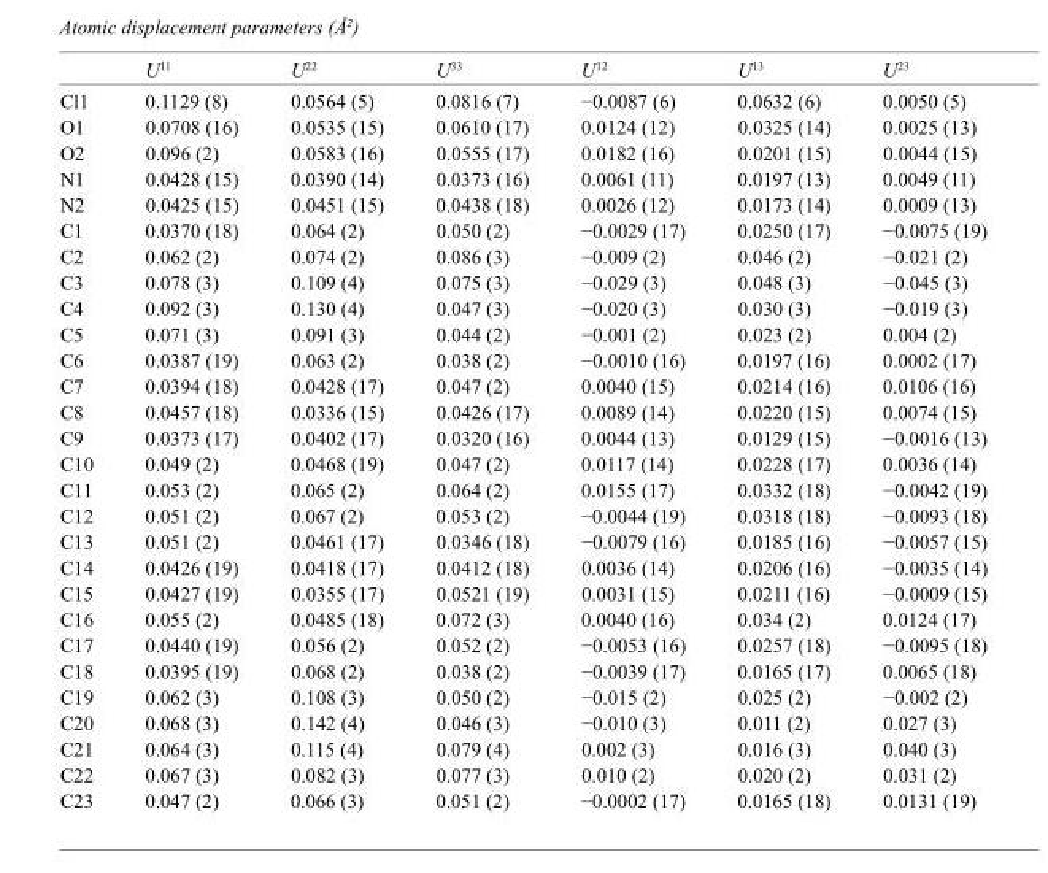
<table><thead><tr><td></td><td>U<sup>11</sup></td><td>U<sup>22</sup></td><td>U<sup>33</sup></td><td>U<sup>12</sup></td><td>U<sup>13</sup></td><td>U<sup>23</sup></td></tr></thead><tbody><tr><td>Cl1</td><td>0.1129 (8)</td><td>0.0564 (5)</td><td>0.0816 (7)</td><td>−0.0087 (6)</td><td>0.0632 (6)</td><td>0.0050 (5)</td></tr><tr><td>O1</td><td>0.0708 (16)</td><td>0.0535 (15)</td><td>0.0610 (17)</td><td>0.0124 (12)</td><td>0.0325 (14)</td><td>0.0025 (13)</td></tr><tr><td>O2</td><td>0.096 (2)</td><td>0.0583 (16)</td><td>0.0555 (17)</td><td>0.0182 (16)</td><td>0.0201 (15)</td><td>0.0044 (15)</td></tr><tr><td>N1</td><td>0.0428 (15)</td><td>0.0390 (14)</td><td>0.0373 (16)</td><td>0.0061 (11)</td><td>0.0197 (13)</td><td>0.0049 (11)</td></tr><tr><td>N2</td><td>0.0425 (15)</td><td>0.0451 (15)</td><td>0.0438 (18)</td><td>0.0026 (12)</td><td>0.0173 (14)</td><td>0.0009 (13)</td></tr><tr><td>C1</td><td>0.0370 (18)</td><td>0.064 (2)</td><td>0.050 (2)</td><td>−0.0029 (17)</td><td>0.0250 (17)</td><td>−0.0075 (19)</td></tr><tr><td>C2</td><td>0.062 (2)</td><td>0.074 (2)</td><td>0.086 (3)</td><td>−0.009 (2)</td><td>0.046 (2)</td><td>−0.021 (2)</td></tr><tr><td>C3</td><td>0.078 (3)</td><td>0.109 (4)</td><td>0.075 (3)</td><td>−0.029 (3)</td><td>0.048 (3)</td><td>−0.045 (3)</td></tr><tr><td>C4</td><td>0.092 (3)</td><td>0.130 (4)</td><td>0.047 (3)</td><td>−0.020 (3)</td><td>0.030 (3)</td><td>−0.019 (3)</td></tr><tr><td>C5</td><td>0.071 (3)</td><td>0.091 (3)</td><td>0.044 (2)</td><td>−0.001 (2)</td><td>0.023 (2)</td><td>0.004 (2)</td></tr><tr><td>C6</td><td>0.0387 (19)</td><td>0.063 (2)</td><td>0.038 (2)</td><td>−0.0010 (16)</td><td>0.0197 (16)</td><td>0.0002 (17)</td></tr><tr><td>C7</td><td>0.0394 (18)</td><td>0.0428 (17)</td><td>0.047 (2)</td><td>0.0040 (15)</td><td>0.0214 (16)</td><td>0.0106 (16)</td></tr><tr><td>C8</td><td>0.0457 (18)</td><td>0.0336 (15)</td><td>0.0426 (17)</td><td>0.0089 (14)</td><td>0.0220 (15)</td><td>0.0074 (15)</td></tr><tr><td>C9</td><td>0.0373 (17)</td><td>0.0402 (17)</td><td>0.0320 (16)</td><td>0.0044 (13)</td><td>0.0129 (15)</td><td>−0.0016 (13)</td></tr><tr><td>C10</td><td>0.049 (2)</td><td>0.0468 (19)</td><td>0.047 (2)</td><td>0.0117 (14)</td><td>0.0228 (17)</td><td>0.0036 (14)</td></tr><tr><td>C11</td><td>0.053 (2)</td><td>0.065 (2)</td><td>0.064 (2)</td><td>0.0155 (17)</td><td>0.0332 (18)</td><td>−0.0042 (19)</td></tr><tr><td>C12</td><td>0.051 (2)</td><td>0.067 (2)</td><td>0.053 (2)</td><td>−0.0044 (19)</td><td>0.0318 (18)</td><td>−0.0093 (18)</td></tr><tr><td>C13</td><td>0.051 (2)</td><td>0.0461 (17)</td><td>0.0346 (18)</td><td>−0.0079 (16)</td><td>0.0185 (16)</td><td>−0.0057 (15)</td></tr><tr><td>C14</td><td>0.0426 (19)</td><td>0.0418 (17)</td><td>0.0412 (18)</td><td>0.0036 (14)</td><td>0.0206 (16)</td><td>−0.0035 (14)</td></tr><tr><td>C15</td><td>0.0427 (19)</td><td>0.0355 (17)</td><td>0.0521 (19)</td><td>0.0031 (15)</td><td>0.0211 (16)</td><td>−0.0009 (15)</td></tr><tr><td>C16</td><td>0.055 (2)</td><td>0.0485 (18)</td><td>0.072 (3)</td><td>0.0040 (16)</td><td>0.034 (2)</td><td>0.0124 (17)</td></tr><tr><td>C17</td><td>0.0440 (19)</td><td>0.056 (2)</td><td>0.052 (2)</td><td>−0.0053 (16)</td><td>0.0257 (18)</td><td>−0.0095 (18)</td></tr><tr><td>C18</td><td>0.0395 (19)</td><td>0.068 (2)</td><td>0.038 (2)</td><td>−0.0039 (17)</td><td>0.0165 (17)</td><td>0.0065 (18)</td></tr><tr><td>C19</td><td>0.062 (3)</td><td>0.108 (3)</td><td>0.050 (2)</td><td>−0.015 (2)</td><td>0.025 (2)</td><td>−0.002 (2)</td></tr><tr><td>C20</td><td>0.068 (3)</td><td>0.142 (4)</td><td>0.046 (3)</td><td>−0.010 (3)</td><td>0.011 (2)</td><td>0.027 (3)</td></tr><tr><td>C21</td><td>0.064 (3)</td><td>0.115 (4)</td><td>0.079 (4)</td><td>0.002 (3)</td><td>0.016 (3)</td><td>0.040 (3)</td></tr><tr><td>C22</td><td>0.067 (3)</td><td>0.082 (3)</td><td>0.077 (3)</td><td>0.010 (2)</td><td>0.020 (2)</td><td>0.031 (2)</td></tr><tr><td>C23</td><td>0.047 (2)</td><td>0.066 (3)</td><td>0.051 (2)</td><td>−0.0002 (17)</td><td>0.0165 (18)</td><td>0.0131 (19)</td></tr></tbody></table>